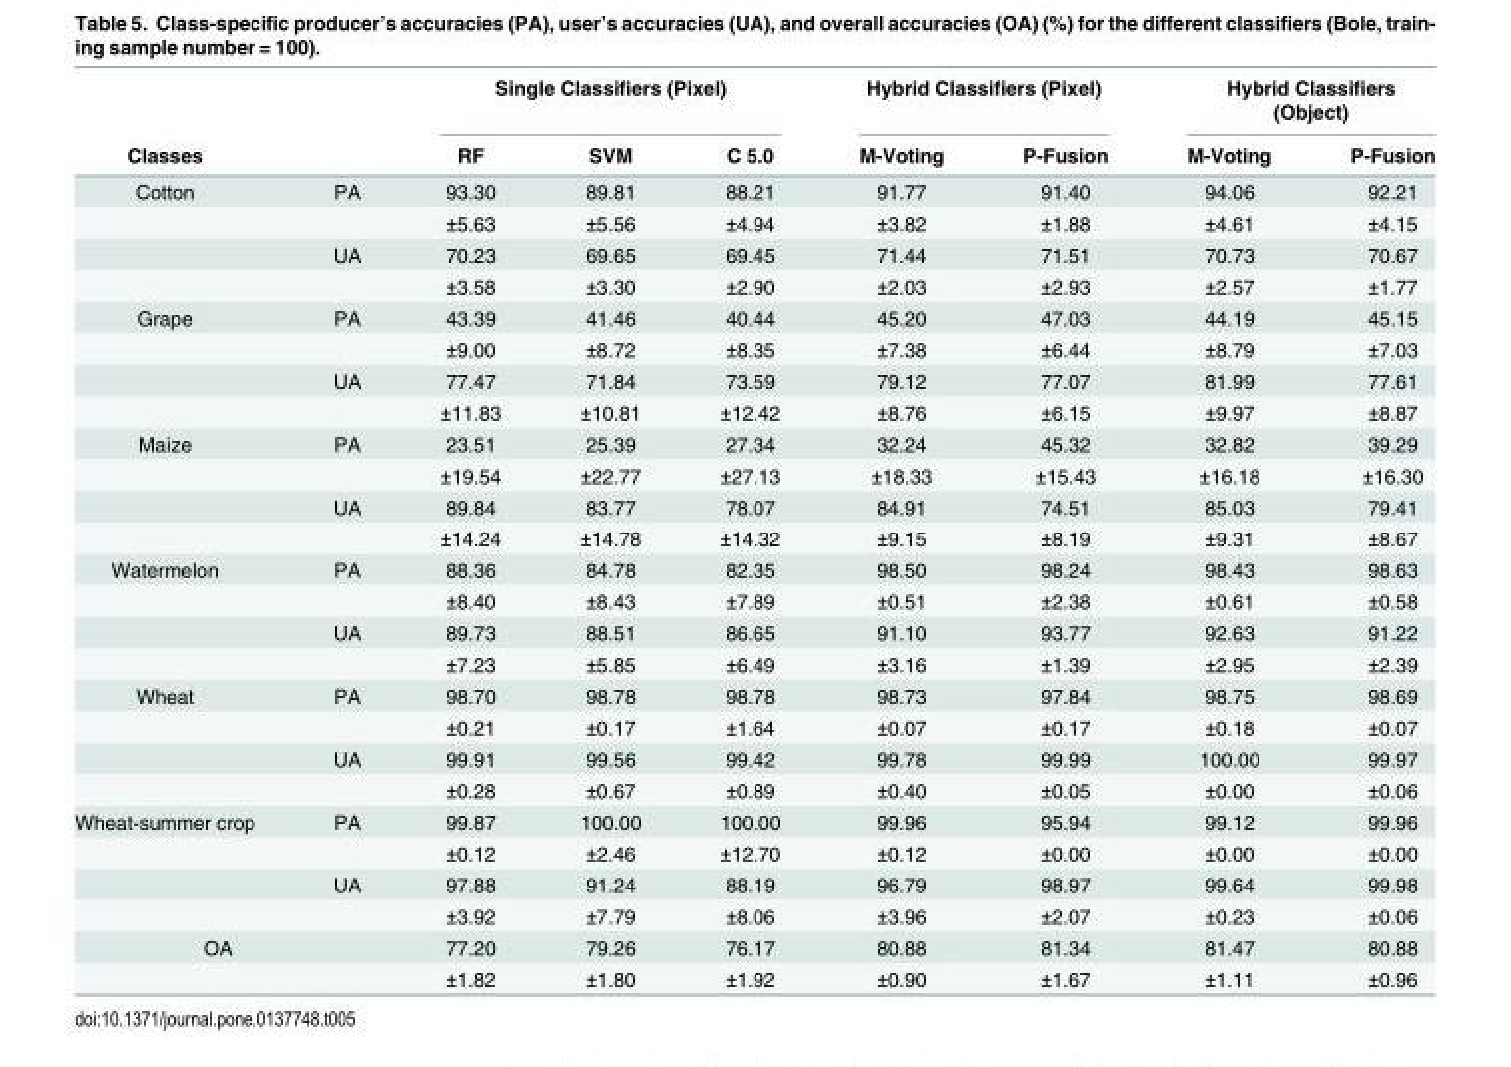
<table><thead><tr><td rowspan="2">Classes</td><td rowspan="2"></td><td colspan="3">Single Classifiers (Pixel)</td><td colspan="2">Hybrid Classifiers (Pixel)</td><td colspan="2">Hybrid Classifiers (Object)</td></tr><tr><td>RF</td><td>SVM</td><td>C 5.0</td><td>M-Voting</td><td>P-Fusion</td><td>M-Voting</td><td>P-Fusion</td></tr></thead><tbody><tr><td rowspan="4">Cotton</td><td>PA</td><td>93.30</td><td>89.81</td><td>88.21</td><td>91.77</td><td>91.40</td><td>94.06</td><td>92.21</td></tr><tr><td></td><td>±5.63</td><td>±5.56</td><td>±4.94</td><td>±3.82</td><td>±1.88</td><td>±4.61</td><td>±4.15</td></tr><tr><td>UA</td><td>70.23</td><td>69.65</td><td>69.45</td><td>71.44</td><td>71.51</td><td>70.73</td><td>70.67</td></tr><tr><td></td><td>±3.58</td><td>±3.30</td><td>±2.90</td><td>±2.03</td><td>±2.93</td><td>±2.57</td><td>±1.77</td></tr><tr><td rowspan="4">Grape</td><td>PA</td><td>43.39</td><td>41.46</td><td>40.44</td><td>45.20</td><td>47.03</td><td>44.19</td><td>45.15</td></tr><tr><td></td><td>±9.00</td><td>±8.72</td><td>±8.35</td><td>±7.38</td><td>±6.44</td><td>±8.79</td><td>±7.03</td></tr><tr><td>UA</td><td>77.47</td><td>71.84</td><td>73.59</td><td>79.12</td><td>77.07</td><td>81.99</td><td>77.61</td></tr><tr><td></td><td>±11.83</td><td>±10.81</td><td>±12.42</td><td>±8.76</td><td>±6.15</td><td>±9.97</td><td>±8.87</td></tr><tr><td rowspan="4">Maize</td><td>PA</td><td>23.51</td><td>25.39</td><td>27.34</td><td>32.24</td><td>45.32</td><td>32.82</td><td>39.29</td></tr><tr><td></td><td>±19.54</td><td>±22.77</td><td>±27.13</td><td>±18.33</td><td>±15.43</td><td>±16.18</td><td>±16.30</td></tr><tr><td>UA</td><td>89.84</td><td>83.77</td><td>78.07</td><td>84.91</td><td>74.51</td><td>85.03</td><td>79.41</td></tr><tr><td></td><td>±14.24</td><td>±14.78</td><td>±14.32</td><td>±9.15</td><td>±8.19</td><td>±9.31</td><td>±8.67</td></tr><tr><td rowspan="4">Watermelon</td><td>PA</td><td>88.36</td><td>84.78</td><td>82.35</td><td>98.50</td><td>98.24</td><td>98.43</td><td>98.63</td></tr><tr><td></td><td>±8.40</td><td>±8.43</td><td>±7.89</td><td>±0.51</td><td>±2.38</td><td>±0.61</td><td>±0.58</td></tr><tr><td>UA</td><td>89.73</td><td>88.51</td><td>86.65</td><td>91.10</td><td>93.77</td><td>92.63</td><td>91.22</td></tr><tr><td></td><td>±7.23</td><td>±5.85</td><td>±6.49</td><td>±3.16</td><td>±1.39</td><td>±2.95</td><td>±2.39</td></tr><tr><td rowspan="4">Wheat</td><td>PA</td><td>98.70</td><td>98.78</td><td>98.78</td><td>98.73</td><td>97.84</td><td>98.75</td><td>98.69</td></tr><tr><td></td><td>±0.21</td><td>±0.17</td><td>±1.64</td><td>±0.07</td><td>±0.17</td><td>±0.18</td><td>±0.07</td></tr><tr><td>UA</td><td>99.91</td><td>99.56</td><td>99.42</td><td>99.78</td><td>99.99</td><td>100.00</td><td>99.97</td></tr><tr><td></td><td>±0.28</td><td>±0.67</td><td>±0.89</td><td>±0.40</td><td>±0.05</td><td>±0.00</td><td>±0.06</td></tr><tr><td rowspan="4">Wheat-summer crop</td><td>PA</td><td>99.87</td><td>100.00</td><td>100.00</td><td>99.96</td><td>95.94</td><td>99.12</td><td>99.96</td></tr><tr><td></td><td>±0.12</td><td>±2.46</td><td>±12.70</td><td>±0.12</td><td>±0.00</td><td>±0.00</td><td>±0.00</td></tr><tr><td>UA</td><td>97.88</td><td>91.24</td><td>88.19</td><td>96.79</td><td>98.97</td><td>99.64</td><td>99.98</td></tr><tr><td></td><td>±3.92</td><td>±7.79</td><td>±8.06</td><td>±3.96</td><td>±2.07</td><td>±0.23</td><td>±0.06</td></tr><tr><td rowspan="2" colspan="2">OA</td><td>77.20</td><td>79.26</td><td>76.17</td><td>80.88</td><td>81.34</td><td>81.47</td><td>80.88</td></tr><tr><td>±1.82</td><td>±1.80</td><td>±1.92</td><td>±0.90</td><td>±1.67</td><td>±1.11</td><td>±0.96</td></tr></tbody></table>